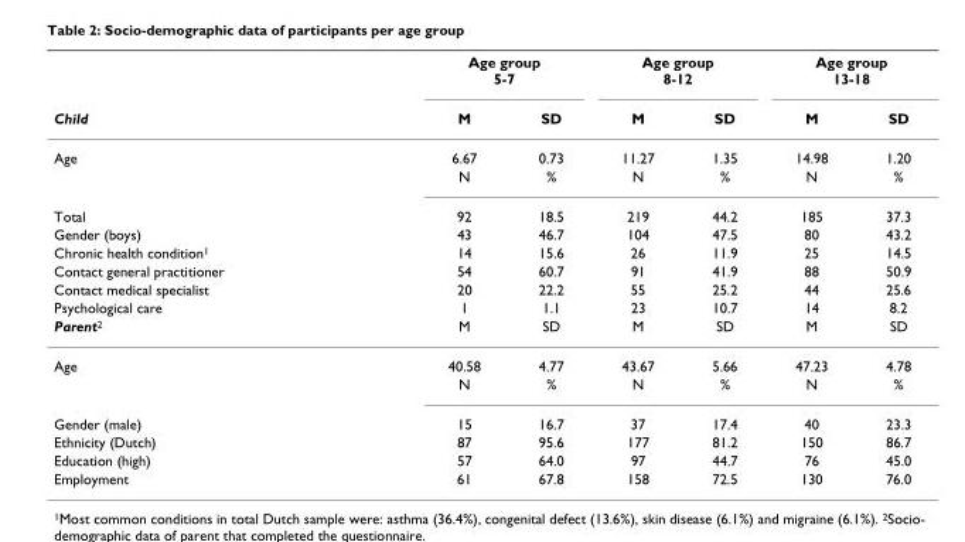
<table><thead><tr><td rowspan="2">Child</td><td colspan="2">Age group 5-7</td><td colspan="2">Age group 8-12</td><td colspan="2">Age group 13-18</td></tr><tr><td>M</td><td>SD</td><td>M</td><td>SD</td><td>M</td><td>SD</td></tr></thead><tbody><tr><td rowspan="2">Age</td><td>6.67</td><td>0.73</td><td>11.27</td><td>1.35</td><td>14.98</td><td>1.20</td></tr><tr><td>N</td><td>%</td><td>N</td><td>%</td><td>N</td><td>%</td></tr><tr><td>Total</td><td>92</td><td>18.5</td><td>219</td><td>44.2</td><td>185</td><td>37.3</td></tr><tr><td>Gender (boys)</td><td>43</td><td>46.7</td><td>104</td><td>47.5</td><td>80</td><td>43.2</td></tr><tr><td>Chronic health condition<sup>1</sup></td><td>14</td><td>15.6</td><td>26</td><td>11.9</td><td>25</td><td>14.5</td></tr><tr><td>Contact general practitioner</td><td>54</td><td>60.7</td><td>91</td><td>41.9</td><td>88</td><td>50.9</td></tr><tr><td>Contact medical specialist</td><td>20</td><td>22.2</td><td>55</td><td>25.2</td><td>44</td><td>25.6</td></tr><tr><td>Psychological care</td><td>1</td><td>1.1</td><td>23</td><td>10.7</td><td>14</td><td>8.2</td></tr><tr><td>Parent<sup>2</sup></td><td>M</td><td>SD</td><td>M</td><td>SD</td><td>M</td><td>SD</td></tr><tr><td rowspan="2">Age</td><td>40.58</td><td>4.77</td><td>43.67</td><td>5.66</td><td>47.23</td><td>4.78</td></tr><tr><td>N</td><td>%</td><td>N</td><td>%</td><td>N</td><td>%</td></tr><tr><td>Gender (male)</td><td>15</td><td>16.7</td><td>37</td><td>17.4</td><td>40</td><td>23.3</td></tr><tr><td>Ethnicity (Dutch)</td><td>87</td><td>95.6</td><td>177</td><td>81.2</td><td>150</td><td>86.7</td></tr><tr><td>Education (high)</td><td>57</td><td>64.0</td><td>97</td><td>44.7</td><td>76</td><td>45.0</td></tr><tr><td>Employment</td><td>61</td><td>67.8</td><td>158</td><td>72.5</td><td>130</td><td>76.0</td></tr></tbody></table>